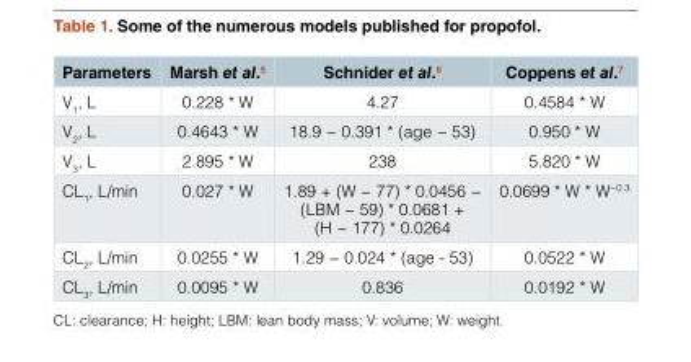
<table><thead><tr><td>Parameters</td><td>Marsh et al.<sup>5</sup></td><td>Schnider et al.<sup>6</sup></td><td>Coppens et al.<sup>7</sup></td></tr></thead><tbody><tr><td>V<sub>1</sub>, L</td><td>0.228 * W</td><td>4.27</td><td>0.4584 * W</td></tr><tr><td>V<sub>2</sub>, L</td><td>0.4643 * W</td><td>18.9 − 0.391 * (age − 53)</td><td>0.950 * W</td></tr><tr><td>V<sub>3</sub>, L</td><td>2.895 * W</td><td>238</td><td>5.820 * W</td></tr><tr><td>CL<sub>1</sub>, L/min</td><td>0.027 * W</td><td>1.89 + (W − 77) * 0.0456 − (LBM − 59) * 0.0681 + (H − 177) * 0.0264</td><td>0.0699 * W * W<sup>−0.3</sup></td></tr><tr><td>CL<sub>2</sub>, L/min</td><td>0.0255 * W</td><td>1.29 − 0.024 * (age - 53)</td><td>0.0522 * W</td></tr><tr><td>CL<sub>3</sub>, L/min</td><td>0.0095 * W</td><td>0.836</td><td>0.0192 * W</td></tr></tbody></table>